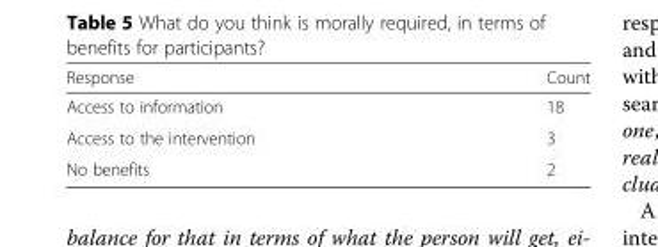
<table><thead><tr><td>Response</td><td>Count</td></tr></thead><tbody><tr><td>Access to information</td><td>18</td></tr><tr><td>Access to the intervention</td><td>3</td></tr><tr><td>No benefits</td><td>2</td></tr></tbody></table>